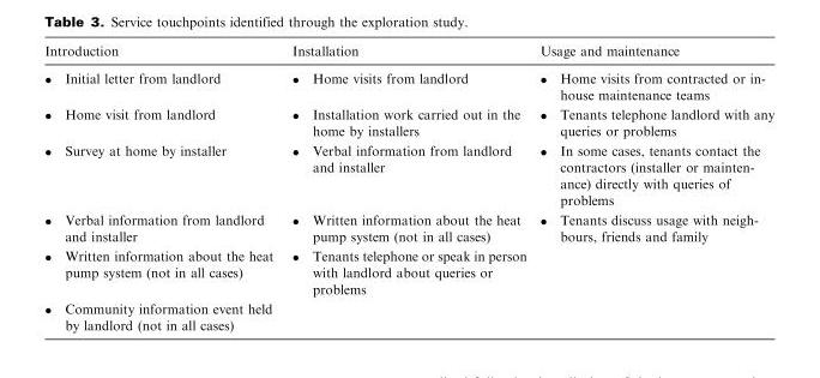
<table><thead><tr><td>Introduction</td><td>Installation</td><td>Usage and maintenance</td></tr></thead><tbody><tr><td>• Initial letter from landlord</td><td>• Home visits from landlord</td><td>• Home visits from contracted or in- house maintenance teams</td></tr><tr><td>• Home visit from landlord</td><td>• Installation work carried out in the home by installers</td><td>• Tenants telephone landlord with any queries or problems</td></tr><tr><td>• Survey at home by installer</td><td>• Verbal information from landlord and installer</td><td>� In some cases, tenants contact the contractors (installer or mainten- ance) directly with queries of problems</td></tr><tr><td>• Verbal information from landlord and installer</td><td>• Written information about the heat pump system (not in all cases)</td><td>� Tenants discuss usage with neigh- bours, friends and family</td></tr><tr><td>• Written information about the heat pump system (not in all cases)</td><td>• Tenants telephone or speak in person with landlord about queries or problems</td><td></td></tr><tr><td>• Community information event held by landlord (not in all cases)</td><td></td><td></td></tr></tbody></table>